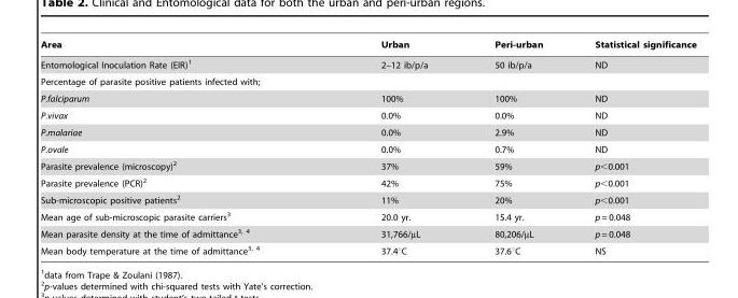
<table><thead><tr><td>Area</td><td>Urban</td><td>Peri-urban</td><td>Statistical significance</td></tr></thead><tbody><tr><td>Entomological Inoculation Rate (EIR)<sup>1</sup></td><td>2–12 ib/p/a</td><td>50 ib/p/a</td><td>ND</td></tr><tr><td colspan="4">Percentage of parasite positive patients infected with;</td></tr><tr><td>P.falciparum</td><td>100%</td><td>100%</td><td>ND</td></tr><tr><td>P.vivax</td><td>0.0%</td><td>0.0%</td><td>ND</td></tr><tr><td>P.malariae</td><td>0.0%</td><td>2.9%</td><td>ND</td></tr><tr><td>P.ovale</td><td>0.0%</td><td>0.7%</td><td>ND</td></tr><tr><td>Parasite prevalence (microscopy)<sup>2</sup></td><td>37%</td><td>59%</td><td>p&lt;0.001</td></tr><tr><td>Parasite prevalence (PCR)<sup>2</sup></td><td>42%</td><td>75%</td><td>p&lt;0.001</td></tr><tr><td>Sub-microscopic positive patients<sup>2</sup></td><td>11%</td><td>20%</td><td>p&lt;0.001</td></tr><tr><td>Mean age of sub-microscopic parasite carriers<sup>3</sup></td><td>20.0 yr.</td><td>15.4 yr.</td><td>p = 0.048</td></tr><tr><td>Mean parasite density at the time of admittance<sup>3, 4</sup></td><td>31,766/µL</td><td>80,206/µL</td><td>p = 0.048</td></tr><tr><td>Mean body temperature at the time of admittance<sup>3, 4</sup></td><td>37.4°C</td><td>37.6°C</td><td>NS</td></tr></tbody></table>